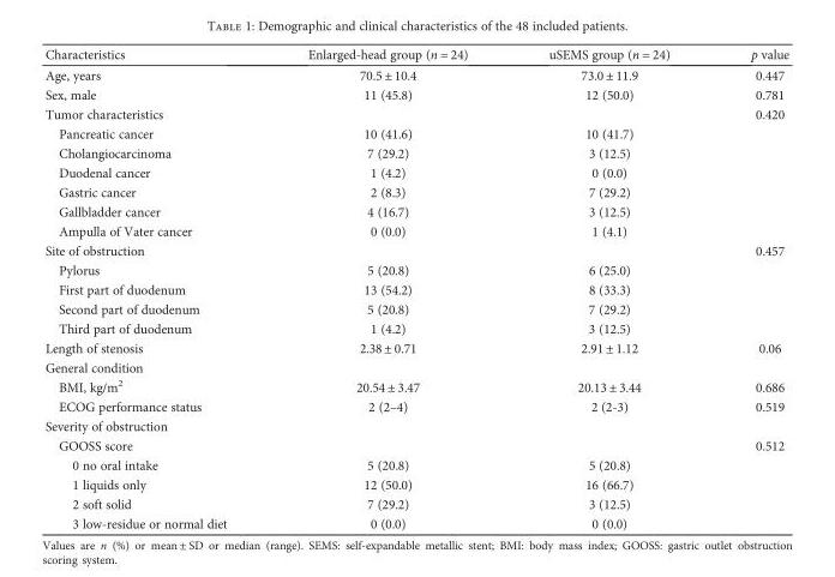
<table><thead><tr><td>Characteristics</td><td>Enlarged-head group (n = 24)</td><td>uSEMS group (n = 24)</td><td>p value</td></tr></thead><tbody><tr><td>Age, years</td><td>70.5 ± 10.4</td><td>73.0 ± 11.9</td><td>0.447</td></tr><tr><td>Sex, male</td><td>11 (45.8)</td><td>12 (50.0)</td><td>0.781</td></tr><tr><td>Tumor characteristics</td><td></td><td></td><td>0.420</td></tr><tr><td>Pancreatic cancer</td><td>10 (41.6)</td><td>10 (41.7)</td><td></td></tr><tr><td>Cholangiocarcinoma</td><td>7 (29.2)</td><td>3 (12.5)</td><td></td></tr><tr><td>Duodenal cancer</td><td>1 (4.2)</td><td>0 (0.0)</td><td></td></tr><tr><td>Gastric cancer</td><td>2 (8.3)</td><td>7 (29.2)</td><td></td></tr><tr><td>Gallbladder cancer</td><td>4 (16.7)</td><td>3 (12.5)</td><td></td></tr><tr><td>Ampulla of Vater cancer</td><td>0 (0.0)</td><td>1 (4.1)</td><td></td></tr><tr><td>Site of obstruction</td><td></td><td></td><td>0.457</td></tr><tr><td>Pylorus</td><td>5 (20.8)</td><td>6 (25.0)</td><td></td></tr><tr><td>First part of duodenum</td><td>13 (54.2)</td><td>8 (33.3)</td><td></td></tr><tr><td>Second part of duodenum</td><td>5 (20.8)</td><td>7 (29.2)</td><td></td></tr><tr><td>Third part of duodenum</td><td>1 (4.2)</td><td>3 (12.5)</td><td></td></tr><tr><td>Length of stenosis</td><td>2.38 ± 0.71</td><td>2.91 ± 1.12</td><td>0.06</td></tr><tr><td colspan="4">General condition</td></tr><tr><td>BMI, kg/m<sup>2</sup></td><td>20.54 ± 3.47</td><td>20.13 ± 3.44</td><td>0.686</td></tr><tr><td>ECOG performance status</td><td>2 (2–4)</td><td>2 (2-3)</td><td>0.519</td></tr><tr><td colspan="4">Severity of obstruction</td></tr><tr><td>GOOSS score</td><td></td><td></td><td>0.512</td></tr><tr><td>0 no oral intake</td><td>5 (20.8)</td><td>5 (20.8)</td><td></td></tr><tr><td>1 liquids only</td><td>12 (50.0)</td><td>16 (66.7)</td><td></td></tr><tr><td>2 soft solid</td><td>7 (29.2)</td><td>3 (12.5)</td><td></td></tr><tr><td>3 low-residue or normal diet</td><td>0 (0.0)</td><td>0 (0.0)</td><td></td></tr></tbody></table>